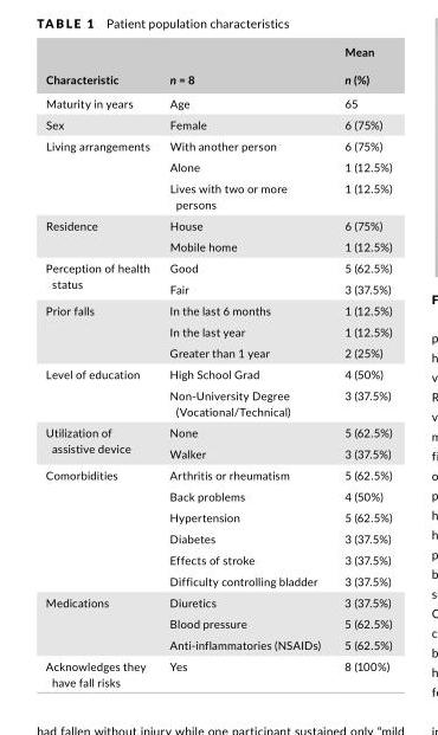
<table><thead><tr><td rowspan="2">Characteristic</td><td rowspan="2">n = 8</td><td rowspan="2">Mean n (%)</td></tr><tr></tr></thead><tbody><tr><td>Maturity in years</td><td>Age</td><td>65</td></tr><tr><td>Sex</td><td>Female</td><td>6 (75%)</td></tr><tr><td rowspan="3">Living arrangements</td><td>With another person</td><td>6 (75%)</td></tr><tr><td>Alone</td><td>1 (12.5%)</td></tr><tr><td>Lives with two or more persons</td><td>1 (12.5%)</td></tr><tr><td rowspan="2">Residence</td><td>House</td><td>6 (75%)</td></tr><tr><td>Mobile home</td><td>1 (12.5%)</td></tr><tr><td rowspan="2">Perception of health status</td><td>Good</td><td>5 (62.5%)</td></tr><tr><td>Fair</td><td>3 (37.5%)</td></tr><tr><td rowspan="3">Prior falls</td><td>In the last 6 months</td><td>1 (12.5%)</td></tr><tr><td>In the last year</td><td>1 (12.5%)</td></tr><tr><td>Greater than 1 year</td><td>2 (25%)</td></tr><tr><td rowspan="2">Level of education</td><td>High School Grad</td><td>4 (50%)</td></tr><tr><td>Non- University Degree (Vocational/Technical)</td><td>3 (37.5%)</td></tr><tr><td rowspan="2">Utilization of assistive device</td><td>None</td><td>5 (62.5%)</td></tr><tr><td>Walker</td><td>3 (37.5%)</td></tr><tr><td rowspan="6">Comorbidities</td><td>Arthritis or rheumatism</td><td>5 (62.5%)</td></tr><tr><td>Back problems</td><td>4 (50%)</td></tr><tr><td>Hypertension</td><td>5 (62.5%)</td></tr><tr><td>Diabetes</td><td>3 (37.5%)</td></tr><tr><td>Effects of stroke</td><td>3 (37.5%)</td></tr><tr><td>Difficulty controlling bladder</td><td>3 (37.5%)</td></tr><tr><td rowspan="3">Medications</td><td>Diuretics</td><td>3 (37.5%)</td></tr><tr><td>Blood pressure</td><td>5 (62.5%)</td></tr><tr><td>Anti- inflammatories (NSAIDs)</td><td>5 (62.5%)</td></tr><tr><td>Acknowledges they have fall risks</td><td>Yes</td><td>8 (100%)</td></tr></tbody></table>